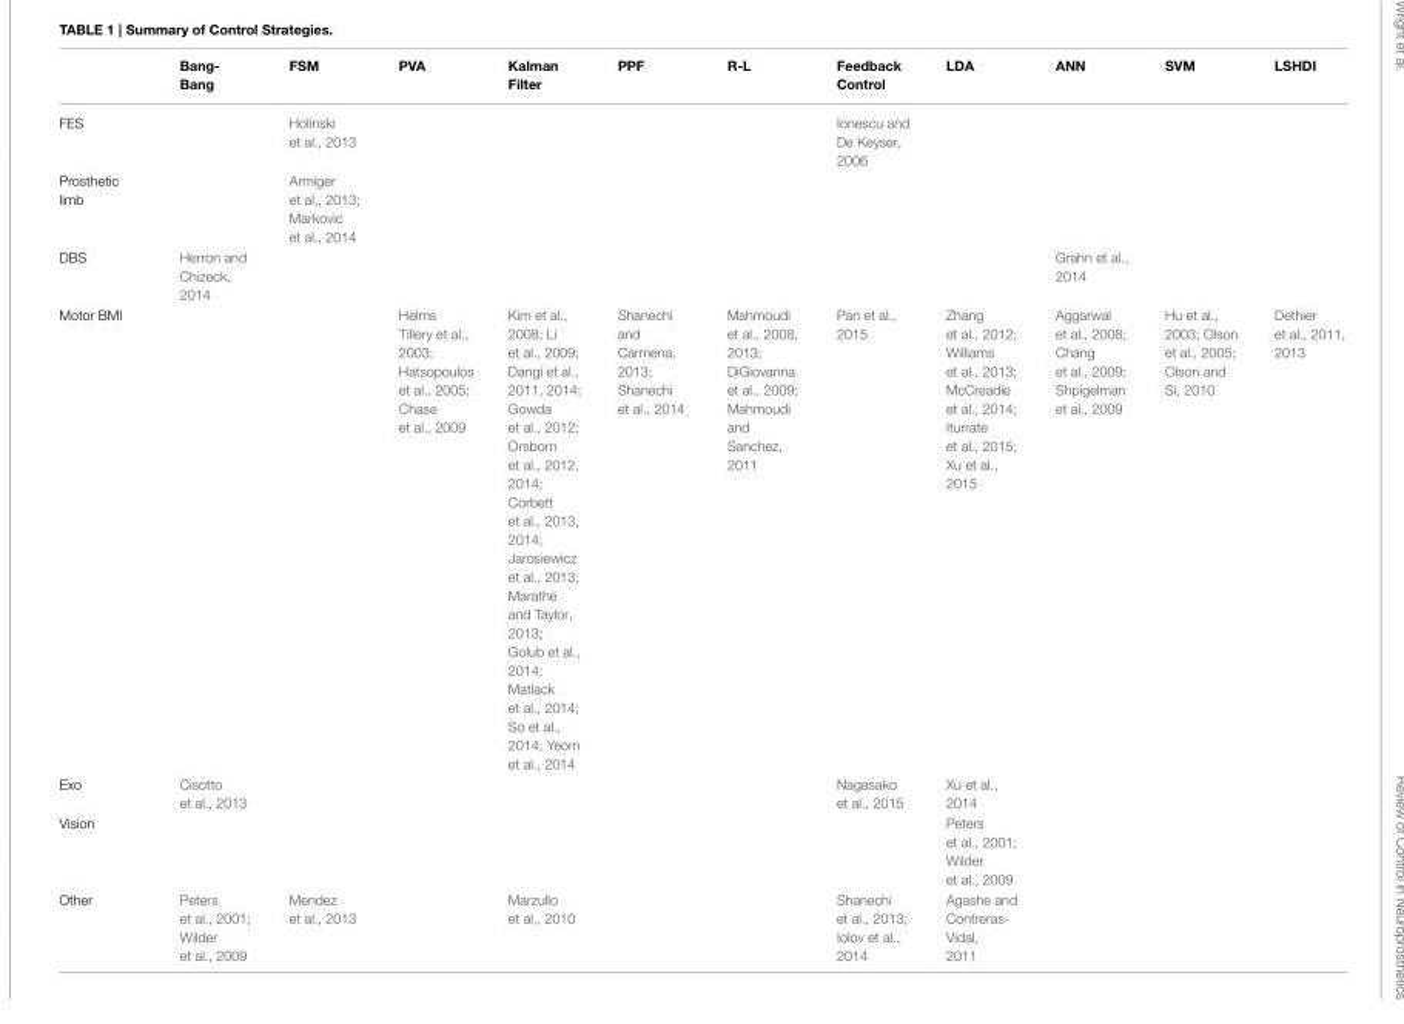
<table><thead><tr><td></td><td>Bang- Bang</td><td>FSM</td><td>PVA</td><td>Kalman Filter</td><td>PPF</td><td>R-L</td><td>Feedback Control</td><td>LDA</td><td>ANN</td><td>SVM</td><td>LSHDI</td></tr></thead><tbody><tr><td>FES</td><td></td><td>Holinski et al., 2013</td><td></td><td></td><td></td><td></td><td>Ionescu and De Keyser, 2006</td><td></td><td></td><td></td><td></td></tr><tr><td>Prosthetic limb</td><td></td><td>Armiger et al., 2013; Markovic et al., 2014</td><td></td><td></td><td></td><td></td><td></td><td></td><td></td><td></td><td></td></tr><tr><td>DBS</td><td>Herron and Chizeck, 2014</td><td></td><td></td><td></td><td></td><td></td><td></td><td></td><td>Grahn et al., 2014</td><td></td><td></td></tr><tr><td>Motor BMI</td><td></td><td></td><td>Helms Tillery et al., 2003; Hatsopoulos et al., 2005; Chase et al., 2009</td><td>Kim et al., 2008; Li et al., 2009; Dangi et al., 2011, 2014; Gowda et al., 2012; Orsborn et al., 2012, 2014; Corbett et al., 2013, 2014; Jarosiewicz et al., 2013; Marathe and Taylor, 2013; Golub et al., 2014; Matlack et al., 2014; So et al., 2014; Yeom et al., 2014</td><td>Shanechi and Carmena, 2013; Shanechi et al., 2014</td><td>Mahmoudi et al., 2008, 2013; DiGiovanna et al., 2009; Mahmoudi and Sanchez, 2011</td><td>Pan et al., 2015</td><td>Zhang et al., 2012; Williams et al., 2013; McCreadie et al., 2014; Iturrate et al., 2015; Xu et al., 2015</td><td>Aggarwal et al., 2008; Chang et al., 2009; Shpigelman et al., 2009</td><td>Hu et al., 2003; Olson et al., 2005; Olson and Si, 2010</td><td>Dethier et al., 2011, 2013</td></tr><tr><td>Exo</td><td>Cisotto et al., 2013</td><td></td><td></td><td></td><td></td><td></td><td>Nagasako et al., 2015</td><td>Xu et al., 2014</td><td></td><td></td><td></td></tr><tr><td>Vision</td><td></td><td></td><td></td><td></td><td></td><td></td><td></td><td>Peters et al., 2001; Wilder et al., 2009</td><td></td><td></td><td></td></tr><tr><td>Other</td><td>Peters et al., 2001; Wilder et al., 2009</td><td>Mendez et al., 2013</td><td></td><td>Marzullo et al., 2010</td><td></td><td></td><td>Shanechi et al., 2013; Iolov et al., 2014</td><td>Agashe and Contreras- Vidal, 2011</td><td></td><td></td><td></td></tr></tbody></table>